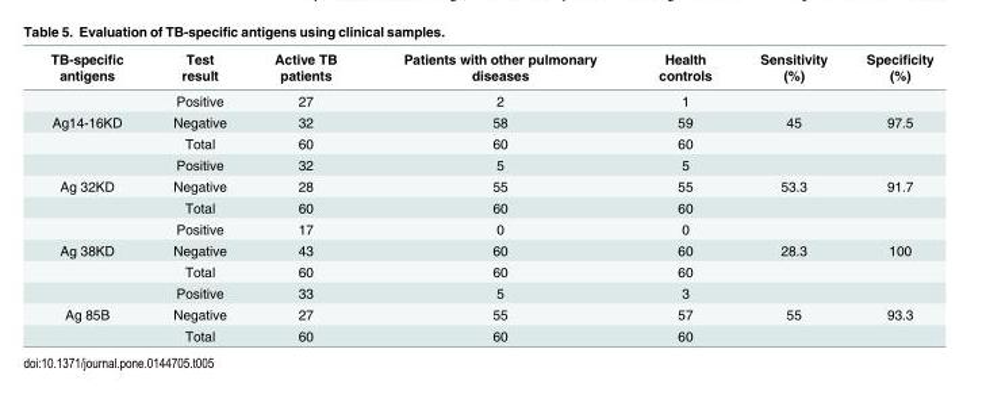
<table><thead><tr><td>TB-specific antigens</td><td>Test result</td><td>Active TB patients</td><td>Patients with other pulmonary diseases</td><td>Health controls</td><td>Sensitivity (%)</td><td>Specificity (%)</td></tr></thead><tbody><tr><td></td><td>Positive</td><td>27</td><td>2</td><td>1</td><td></td><td></td></tr><tr><td rowspan="3">Ag14-16KD</td><td>Negative</td><td>32</td><td>58</td><td>59</td><td>45</td><td>97.5</td></tr><tr><td>Total</td><td>60</td><td>60</td><td>60</td><td></td><td></td></tr><tr><td>Positive</td><td>32</td><td>5</td><td>5</td><td></td><td></td></tr><tr><td rowspan="3">Ag 32KD</td><td>Negative</td><td>28</td><td>55</td><td>55</td><td>53.3</td><td>91.7</td></tr><tr><td>Total</td><td>60</td><td>60</td><td>60</td><td></td><td></td></tr><tr><td>Positive</td><td>17</td><td>0</td><td>0</td><td></td><td></td></tr><tr><td rowspan="3">Ag 38KD</td><td>Negative</td><td>43</td><td>60</td><td>60</td><td>28.3</td><td>100</td></tr><tr><td>Total</td><td>60</td><td>60</td><td>60</td><td></td><td></td></tr><tr><td>Positive</td><td>33</td><td>5</td><td>3</td><td></td><td></td></tr><tr><td rowspan="2">Ag 85B</td><td>Negative</td><td>27</td><td>55</td><td>57</td><td>55</td><td>93.3</td></tr><tr><td>Total</td><td>60</td><td>60</td><td>60</td><td></td><td></td></tr></tbody></table>